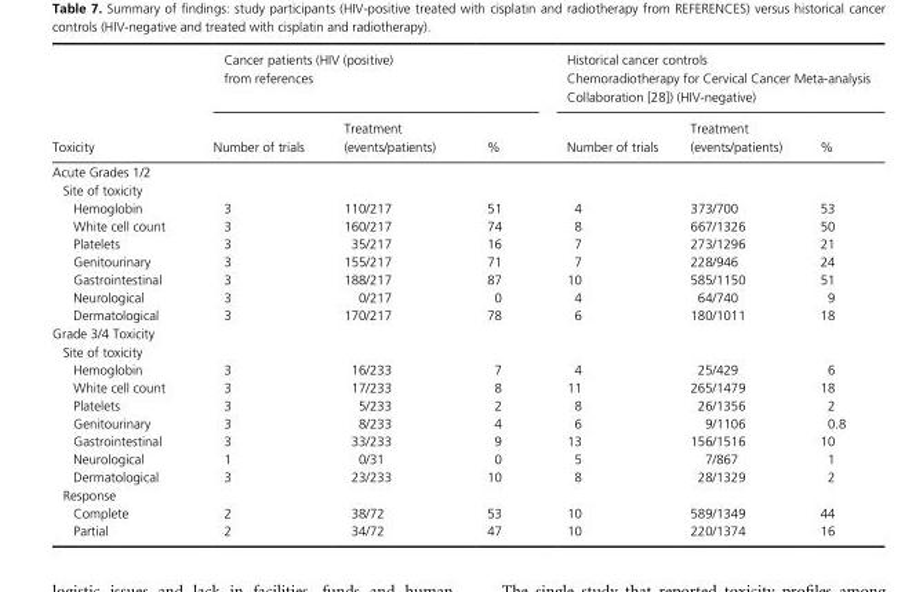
<table><thead><tr><td rowspan="2">Toxicity</td><td colspan="3">Cancer patients (HIV (positive) from references</td><td colspan="3">Historical cancer controls Chemoradiotherapy for Cervical Cancer Meta- analysis Collaboration [28]) (HIV- negative)</td></tr><tr><td>Number of trials</td><td>Treatment (events/patients)</td><td>%</td><td>Number of trials</td><td>Treatment (events/patients)</td><td>%</td></tr></thead><tbody><tr><td colspan="7">Acute Grades 1/2</td></tr><tr><td colspan="7">Site of toxicity</td></tr><tr><td>Hemoglobin</td><td>3</td><td>110/217</td><td>51</td><td>4</td><td>373/700</td><td>53</td></tr><tr><td>White cell count</td><td>3</td><td>160/217</td><td>74</td><td>8</td><td>667/1326</td><td>50</td></tr><tr><td>Platelets</td><td>3</td><td>35/217</td><td>16</td><td>7</td><td>273/1296</td><td>21</td></tr><tr><td>Genitourinary</td><td>3</td><td>155/217</td><td>71</td><td>7</td><td>228/946</td><td>24</td></tr><tr><td>Gastrointestinal</td><td>3</td><td>188/217</td><td>87</td><td>10</td><td>585/1150</td><td>51</td></tr><tr><td>Neurological</td><td>3</td><td>0/217</td><td>0</td><td>4</td><td>64/740</td><td>9</td></tr><tr><td>Dermatological</td><td>3</td><td>170/217</td><td>78</td><td>6</td><td>180/1011</td><td>18</td></tr><tr><td colspan="7">Grade 3/4 Toxicity</td></tr><tr><td colspan="7">Site of toxicity</td></tr><tr><td>Hemoglobin</td><td>3</td><td>16/233</td><td>7</td><td>4</td><td>25/429</td><td>6</td></tr><tr><td>White cell count</td><td>3</td><td>17/233</td><td>8</td><td>11</td><td>265/1479</td><td>18</td></tr><tr><td>Platelets</td><td>3</td><td>5/233</td><td>2</td><td>8</td><td>26/1356</td><td>2</td></tr><tr><td>Genitourinary</td><td>3</td><td>8/233</td><td>4</td><td>6</td><td>9/1106</td><td>0.8</td></tr><tr><td>Gastrointestinal</td><td>3</td><td>33/233</td><td>9</td><td>13</td><td>156/1516</td><td>10</td></tr><tr><td>Neurological</td><td>1</td><td>0/31</td><td>0</td><td>5</td><td>7/867</td><td>1</td></tr><tr><td>Dermatological</td><td>3</td><td>23/233</td><td>10</td><td>8</td><td>28/1329</td><td>2</td></tr><tr><td colspan="7">Response</td></tr><tr><td>Complete</td><td>2</td><td>38/72</td><td>53</td><td>10</td><td>589/1349</td><td>44</td></tr><tr><td>Partial</td><td>2</td><td>34/72</td><td>47</td><td>10</td><td>220/1374</td><td>16</td></tr></tbody></table>